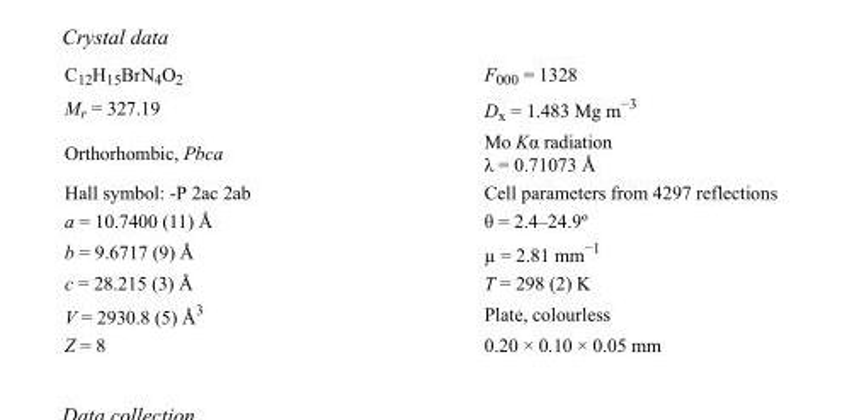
<table><tbody><tr><td>C<sub>12</sub>H<sub>15</sub>BrN<sub>4</sub>O<sub>2</sub></td><td>F<sub>000</sub> = 1328</td></tr><tr><td>M<sub>r</sub> = 327.19</td><td>D<sub>x</sub> = 1.483 Mg m<sup>−3</sup></td></tr><tr><td>Orthorhombic, Pbca</td><td>Mo Kα radiation λ = 0.71073 Å</td></tr><tr><td>Hall symbol: -P 2ac 2ab</td><td>Cell parameters from 4297 reflections</td></tr><tr><td>a = 10.7400 (11) Å</td><td>θ = 2.4–24.9º</td></tr><tr><td>b = 9.6717 (9) Å</td><td>µ = 2.81 mm<sup>−1</sup></td></tr><tr><td>c = 28.215 (3) Å</td><td>T = 298 (2) K</td></tr><tr><td>V = 2930.8 (5) Å<sup>3</sup></td><td>Plate, colourless</td></tr><tr><td>Z = 8</td><td>0.20 × 0.10 × 0.05 mm</td></tr></tbody></table>